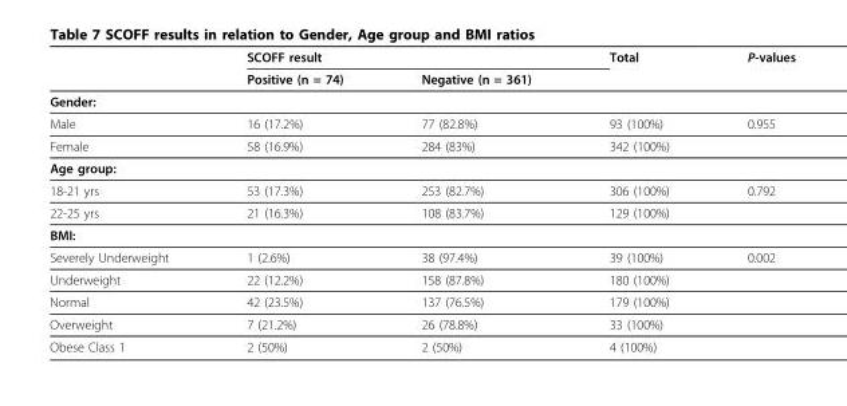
<table><thead><tr><td rowspan="2"></td><td colspan="2">SCOFF result</td><td rowspan="2">Total</td><td rowspan="2">P-values</td></tr><tr><td>Positive (n = 74)</td><td>Negative (n = 361)</td></tr></thead><tbody><tr><td colspan="5">Gender:</td></tr><tr><td>Male</td><td>16 (17.2%)</td><td>77 (82.8%)</td><td>93 (100%)</td><td>0.955</td></tr><tr><td>Female</td><td>58 (16.9%)</td><td>284 (83%)</td><td>342 (100%)</td><td></td></tr><tr><td colspan="5">Age group:</td></tr><tr><td>18-21 yrs</td><td>53 (17.3%)</td><td>253 (82.7%)</td><td>306 (100%)</td><td>0.792</td></tr><tr><td>22-25 yrs</td><td>21 (16.3%)</td><td>108 (83.7%)</td><td>129 (100%)</td><td></td></tr><tr><td colspan="5">BMI:</td></tr><tr><td>Severely Underweight</td><td>1 (2.6%)</td><td>38 (97.4%)</td><td>39 (100%)</td><td>0.002</td></tr><tr><td>Underweight</td><td>22 (12.2%)</td><td>158 (87.8%)</td><td>180 (100%)</td><td></td></tr><tr><td>Normal</td><td>42 (23.5%)</td><td>137 (76.5%)</td><td>179 (100%)</td><td></td></tr><tr><td>Overweight</td><td>7 (21.2%)</td><td>26 (78.8%)</td><td>33 (100%)</td><td></td></tr><tr><td>Obese Class 1</td><td>2 (50%)</td><td>2 (50%)</td><td>4 (100%)</td><td></td></tr></tbody></table>